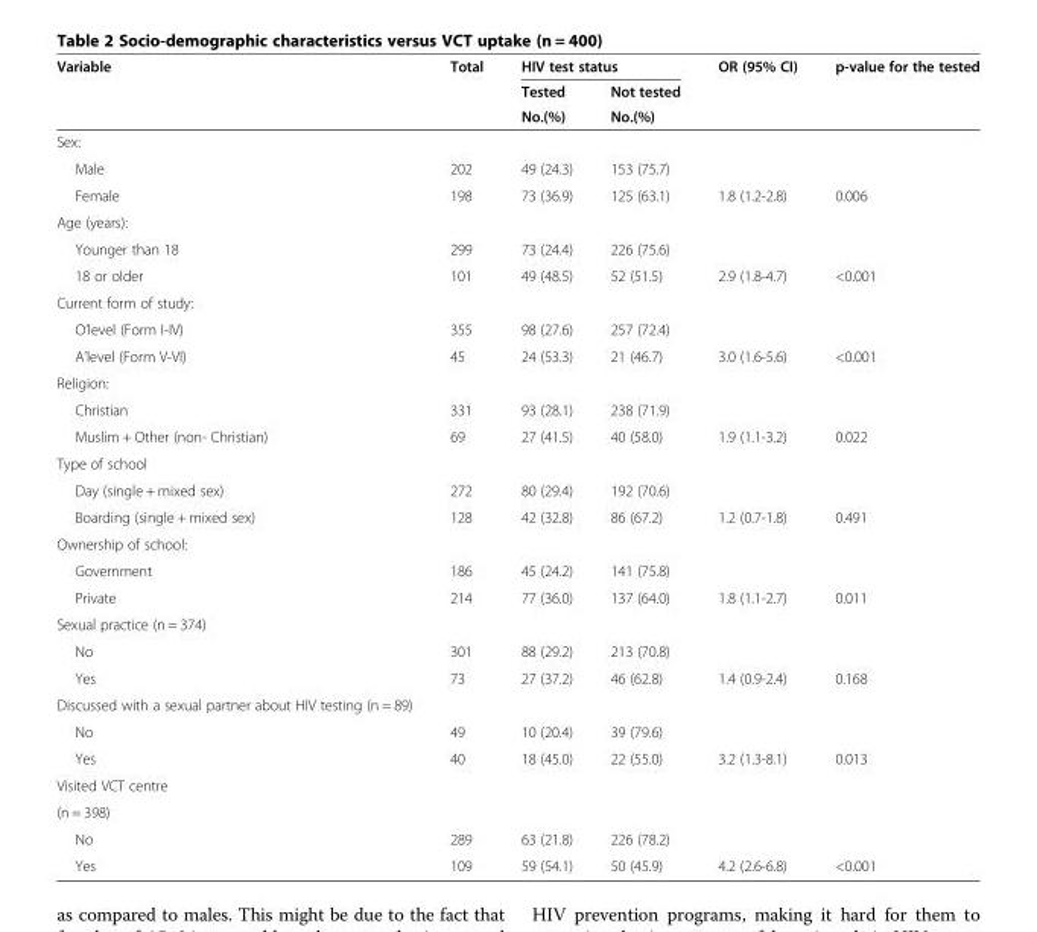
<table><thead><tr><td rowspan="3">Variable</td><td rowspan="3">Total</td><td colspan="2">HIV test status</td><td rowspan="3">OR (95% CI)</td><td rowspan="3">p-value for the tested</td></tr><tr><td rowspan="2">Tested No.(%)</td><td rowspan="2">Not tested No.(%)</td></tr><tr></tr></thead><tbody><tr><td colspan="6">Sex:</td></tr><tr><td>Male</td><td>202</td><td>49 (24.3)</td><td>153 (75.7)</td><td></td><td></td></tr><tr><td>Female</td><td>198</td><td>73 (36.9)</td><td>125 (63.1)</td><td>1.8 (1.2-2.8)</td><td>0.006</td></tr><tr><td colspan="6">Age (years):</td></tr><tr><td>Younger than 18</td><td>299</td><td>73 (24.4)</td><td>226 (75.6)</td><td></td><td></td></tr><tr><td>18 or older</td><td>101</td><td>49 (48.5)</td><td>52 (51.5)</td><td>2.9 (1.8-4.7)</td><td>&lt;0.001</td></tr><tr><td colspan="6">Current form of study:</td></tr><tr><td>O’level (Form I-IV)</td><td>355</td><td>98 (27.6)</td><td>257 (72.4)</td><td></td><td></td></tr><tr><td>A’level (Form V-VI)</td><td>45</td><td>24 (53.3)</td><td>21 (46.7)</td><td>3.0 (1.6-5.6)</td><td>&lt;0.001</td></tr><tr><td colspan="6">Religion:</td></tr><tr><td>Christian</td><td>331</td><td>93 (28.1)</td><td>238 (71.9)</td><td></td><td></td></tr><tr><td>Muslim + Other (non- Christian)</td><td>69</td><td>27 (41.5)</td><td>40 (58.0)</td><td>1.9 (1.1-3.2)</td><td>0.022</td></tr><tr><td colspan="6">Type of school</td></tr><tr><td>Day (single + mixed sex)</td><td>272</td><td>80 (29.4)</td><td>192 (70.6)</td><td></td><td></td></tr><tr><td>Boarding (single + mixed sex)</td><td>128</td><td>42 (32.8)</td><td>86 (67.2)</td><td>1.2 (0.7-1.8)</td><td>0.491</td></tr><tr><td colspan="6">Ownership of school:</td></tr><tr><td>Government</td><td>186</td><td>45 (24.2)</td><td>141 (75.8)</td><td></td><td></td></tr><tr><td>Private</td><td>214</td><td>77 (36.0)</td><td>137 (64.0)</td><td>1.8 (1.1-2.7)</td><td>0.011</td></tr><tr><td colspan="6">Sexual practice (n = 374)</td></tr><tr><td>No</td><td>301</td><td>88 (29.2)</td><td>213 (70.8)</td><td></td><td></td></tr><tr><td>Yes</td><td>73</td><td>27 (37.2)</td><td>46 (62.8)</td><td>1.4 (0.9-2.4)</td><td>0.168</td></tr><tr><td colspan="6">Discussed with a sexual partner about HIV testing (n = 89)</td></tr><tr><td>No</td><td>49</td><td>10 (20.4)</td><td>39 (79.6)</td><td></td><td></td></tr><tr><td>Yes</td><td>40</td><td>18 (45.0)</td><td>22 (55.0)</td><td>3.2 (1.3-8.1)</td><td>0.013</td></tr><tr><td>Visited VCT centre</td><td rowspan="2"></td><td rowspan="2"></td><td rowspan="2"></td><td rowspan="2"></td><td rowspan="2"></td></tr><tr><td>(n = 398)</td></tr><tr><td>No</td><td>289</td><td>63 (21.8)</td><td>226 (78.2)</td><td></td><td></td></tr><tr><td>Yes</td><td>109</td><td>59 (54.1)</td><td>50 (45.9)</td><td>4.2 (2.6-6.8)</td><td>&lt;0.001</td></tr></tbody></table>